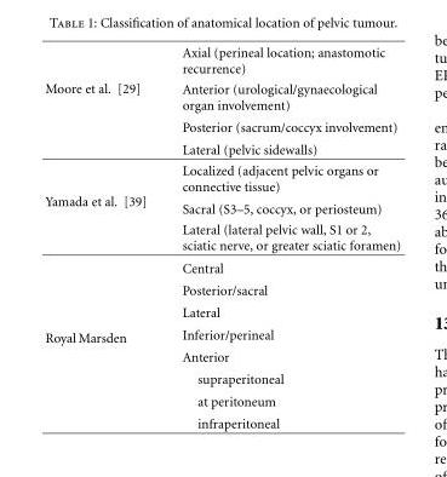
<table><tbody><tr><td rowspan="4">Moore et al. [29]</td><td>Axial (perineal location; anastomotic recurrence)</td></tr><tr><td>Anterior (urological/gynaecological organ involvement)</td></tr><tr><td>Posterior (sacrum/coccyx involvement)</td></tr><tr><td>Lateral (pelvic sidewalls)</td></tr><tr><td rowspan="3">Yamada et al. [39]</td><td>Localized (adjacent pelvic organs or connective tissue)</td></tr><tr><td>Sacral (S3–5, coccyx, or periosteum)</td></tr><tr><td>Lateral (lateral pelvic wall, S1 or 2, sciatic nerve, or greater sciatic foramen)</td></tr><tr><td rowspan="8">Royal Marsden</td><td>Central</td></tr><tr><td>Posterior/sacral</td></tr><tr><td>Lateral</td></tr><tr><td>Inferior/perineal</td></tr><tr><td>Anterior</td></tr><tr><td>supraperitoneal</td></tr><tr><td>at peritoneum</td></tr><tr><td>infraperitoneal</td></tr></tbody></table>